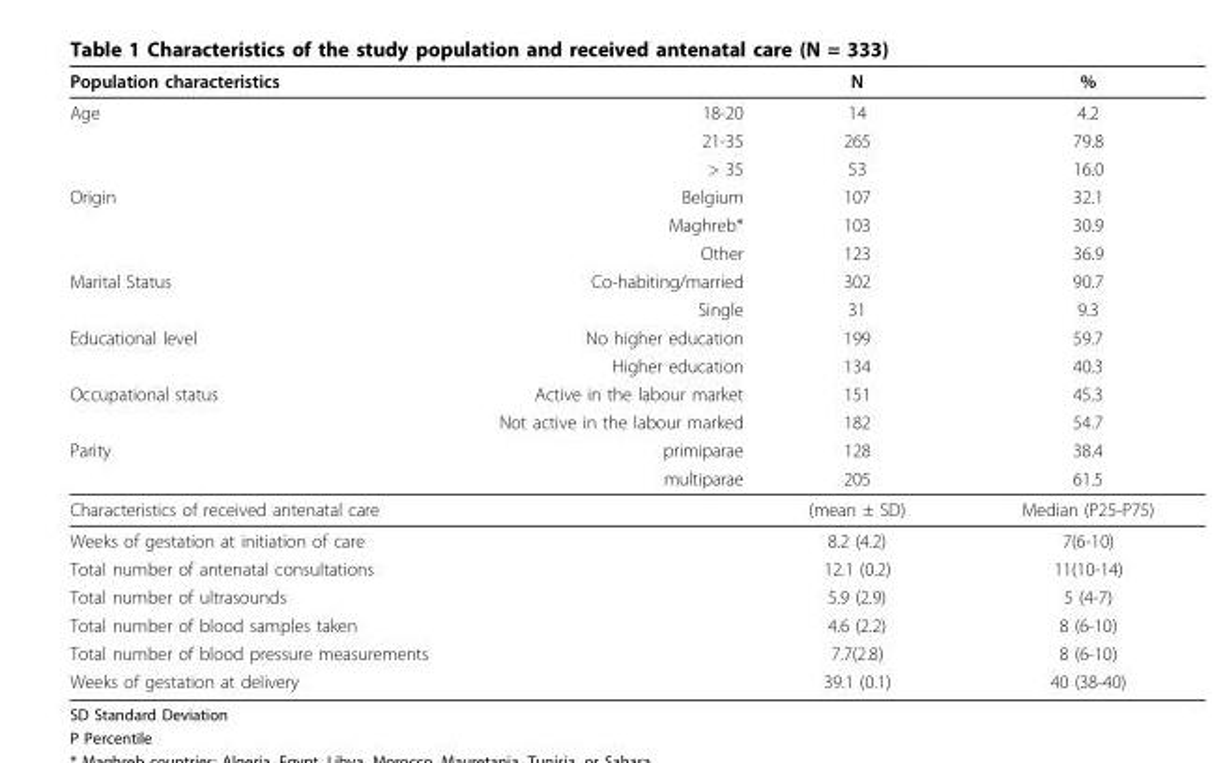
<table><thead><tr><td>Population characteristics</td><td></td><td>N</td><td>%</td></tr></thead><tbody><tr><td rowspan="3">Age</td><td>18-20</td><td>14</td><td>4.2</td></tr><tr><td>21-35</td><td>265</td><td>79.8</td></tr><tr><td>&gt; 35</td><td>53</td><td>16.0</td></tr><tr><td rowspan="3">Origin</td><td>Belgium</td><td>107</td><td>32.1</td></tr><tr><td>Maghreb*</td><td>103</td><td>30.9</td></tr><tr><td>Other</td><td>123</td><td>36.9</td></tr><tr><td rowspan="2">Marital Status</td><td>Co-habiting/married</td><td>302</td><td>90.7</td></tr><tr><td>Single</td><td>31</td><td>9.3</td></tr><tr><td rowspan="2">Educational level</td><td>No higher education</td><td>199</td><td>59.7</td></tr><tr><td>Higher education</td><td>134</td><td>40.3</td></tr><tr><td rowspan="2">Occupational status</td><td>Active in the labour market</td><td>151</td><td>45.3</td></tr><tr><td>Not active in the labour marked</td><td>182</td><td>54.7</td></tr><tr><td rowspan="2">Parity</td><td>primiparae</td><td>128</td><td>38.4</td></tr><tr><td>multiparae</td><td>205</td><td>61.5</td></tr><tr><td colspan="2">Characteristics of received antenatal care</td><td>(mean ± SD)</td><td>Median (P25-P75)</td></tr><tr><td colspan="2">Weeks of gestation at initiation of care</td><td>8.2 (4.2)</td><td>7(6-10)</td></tr><tr><td colspan="2">Total number of antenatal consultations</td><td>12.1 (0.2)</td><td>11(10-14)</td></tr><tr><td colspan="2">Total number of ultrasounds</td><td>5.9 (2.9)</td><td>5 (4-7)</td></tr><tr><td colspan="2">Total number of blood samples taken</td><td>4.6 (2.2)</td><td>8 (6-10)</td></tr><tr><td colspan="2">Total number of blood pressure measurements</td><td>7.7(2.8)</td><td>8 (6-10)</td></tr><tr><td colspan="2">Weeks of gestation at delivery</td><td>39.1 (0.1)</td><td>40 (38-40)</td></tr></tbody></table>